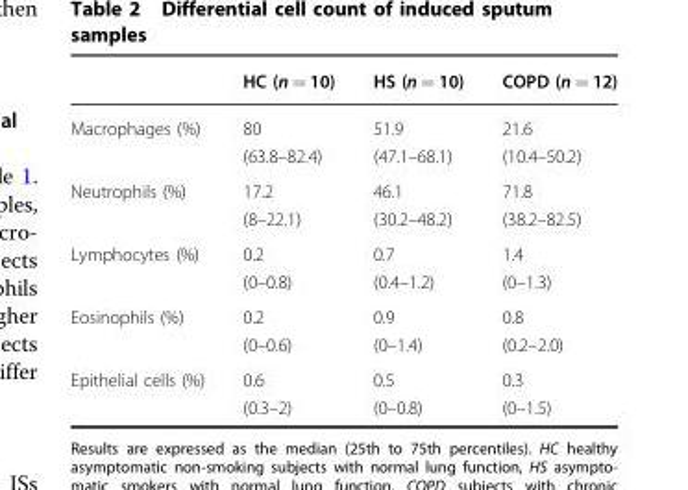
<table><thead><tr><td></td><td>HC (n = 10)</td><td>HS (n = 10)</td><td>COPD (n = 12)</td></tr></thead><tbody><tr><td>Macrophages (%)</td><td>80 (63.8–82.4)</td><td>51.9 (47.1–68.1)</td><td>21.6 (10.4–50.2)</td></tr><tr><td>Neutrophils (%)</td><td>17.2 (8–22.1)</td><td>46.1 (30.2–48.2)</td><td>71.8 (38.2–82.5)</td></tr><tr><td>Lymphocytes (%)</td><td>0.2 (0–0.8)</td><td>0.7 (0.4–1.2)</td><td>1.4 (0–1.3)</td></tr><tr><td>Eosinophils (%)</td><td>0.2 (0–0.6)</td><td>0.9 (0–1.4)</td><td>0.8 (0.2–2.0)</td></tr><tr><td>Epithelial cells (%)</td><td>0.6 (0.3–2)</td><td>0.5 (0–0.8)</td><td>0.3 (0–1.5)</td></tr></tbody></table>